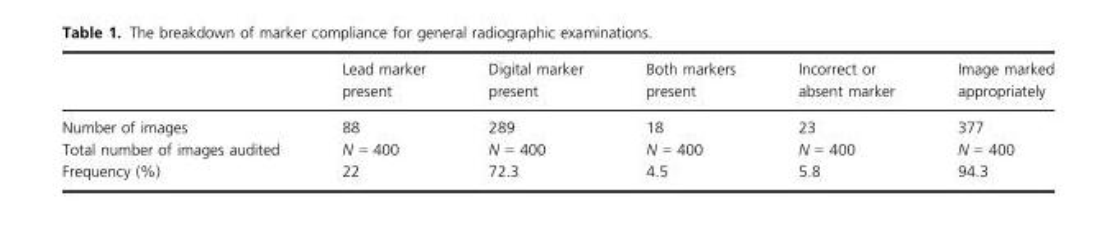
<table><thead><tr><td></td><td>Lead marker present</td><td>Digital marker present</td><td>Both markers present</td><td>Incorrect or absent marker</td><td>Image marked appropriately</td></tr></thead><tbody><tr><td>Number of images</td><td>88</td><td>289</td><td>18</td><td>23</td><td>377</td></tr><tr><td>Total number of images audited</td><td>N = 400</td><td>N = 400</td><td>N = 400</td><td>N = 400</td><td>N = 400</td></tr><tr><td>Frequency (%)</td><td>22</td><td>72.3</td><td>4.5</td><td>5.8</td><td>94.3</td></tr></tbody></table>